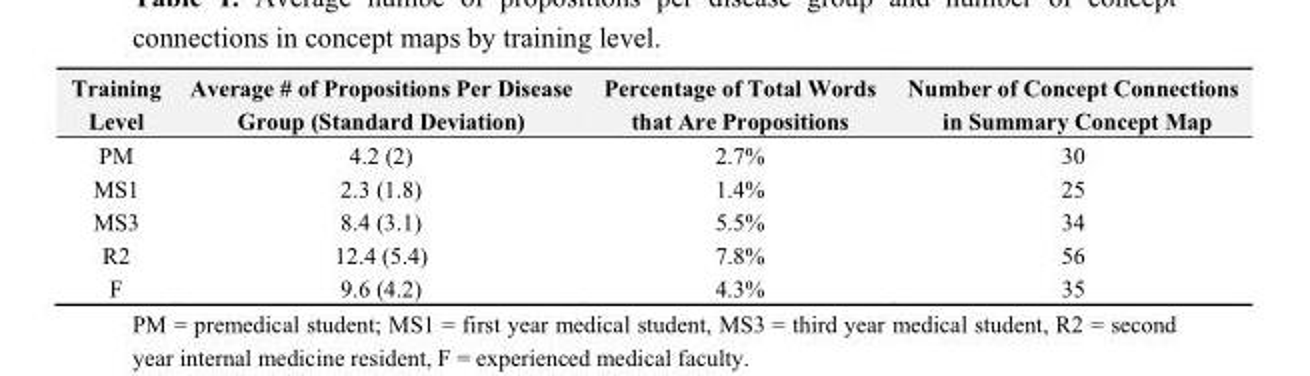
<table><thead><tr><td>Training Level</td><td>Average # of Propositions Per Disease Group (Standard Deviation)</td><td>Percentage of Total Words that Are Propositions</td><td>Number of Concept Connections in Summary Concept Map</td></tr></thead><tbody><tr><td>PM</td><td>4.2 (2)</td><td>2.7%</td><td>30</td></tr><tr><td>MS1</td><td>2.3 (1.8)</td><td>1.4%</td><td>25</td></tr><tr><td>MS3</td><td>8.4 (3.1)</td><td>5.5%</td><td>34</td></tr><tr><td>R2</td><td>12.4 (5.4)</td><td>7.8%</td><td>56</td></tr><tr><td>F</td><td>9.6 (4.2)</td><td>4.3%</td><td>35</td></tr></tbody></table>